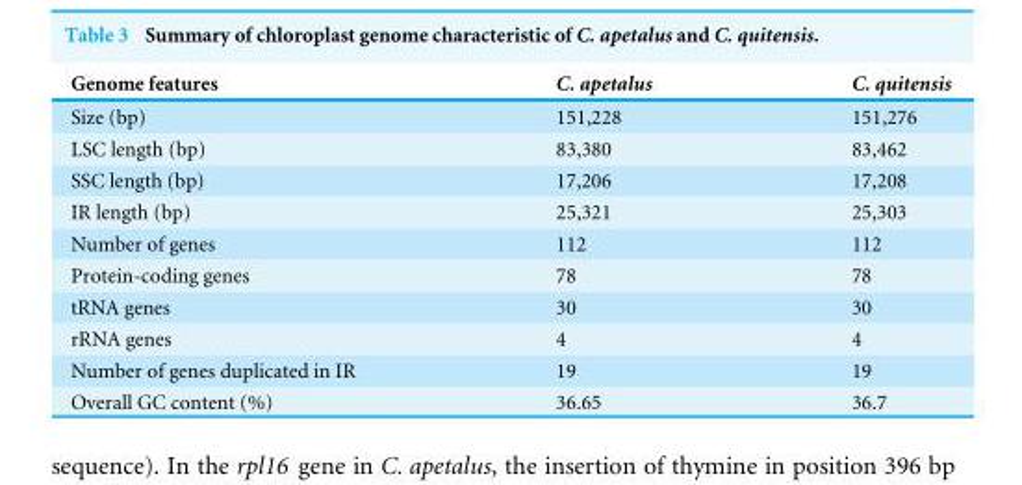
<table><thead><tr><td>Genome features</td><td>C. apetalus</td><td>C. quitensis</td></tr></thead><tbody><tr><td>Size (bp)</td><td>151,228</td><td>151,276</td></tr><tr><td>LSC length (bp)</td><td>83,380</td><td>83,462</td></tr><tr><td>SSC length (bp)</td><td>17,206</td><td>17,208</td></tr><tr><td>IR length (bp)</td><td>25,321</td><td>25,303</td></tr><tr><td>Number of genes</td><td>112</td><td>112</td></tr><tr><td>Protein-coding genes</td><td>78</td><td>78</td></tr><tr><td>tRNA genes</td><td>30</td><td>30</td></tr><tr><td>rRNA genes</td><td>4</td><td>4</td></tr><tr><td>Number of genes duplicated in IR</td><td>19</td><td>19</td></tr><tr><td>Overall GC content (%)</td><td>36.65</td><td>36.7</td></tr></tbody></table>